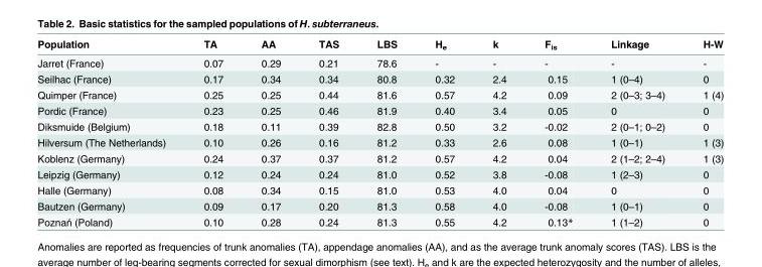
<table><thead><tr><td>Population</td><td>TA</td><td>AA</td><td>TAS</td><td>LBS</td><td>H<sub>e</sub></td><td>k</td><td>F<sub>is</sub></td><td>Linkage</td><td>H-W</td></tr></thead><tbody><tr><td>Jarret (France)</td><td>0.07</td><td>0.29</td><td>0.21</td><td>78.6</td><td>-</td><td>-</td><td>-</td><td>-</td><td>-</td></tr><tr><td>Seilhac (France)</td><td>0.17</td><td>0.34</td><td>0.34</td><td>80.8</td><td>0.32</td><td>2.4</td><td>0.15</td><td>1 (0–4)</td><td>0</td></tr><tr><td>Quimper (France)</td><td>0.25</td><td>0.25</td><td>0.44</td><td>81.6</td><td>0.57</td><td>4.2</td><td>0.09</td><td>2 (0–3; 3–4)</td><td>1 (4)</td></tr><tr><td>Pordic (France)</td><td>0.23</td><td>0.25</td><td>0.46</td><td>81.9</td><td>0.40</td><td>3.4</td><td>0.05</td><td>0</td><td>0</td></tr><tr><td>Diksmuide (Belgium)</td><td>0.18</td><td>0.11</td><td>0.39</td><td>82.8</td><td>0.50</td><td>3.2</td><td>-0.02</td><td>2 (0–1; 0–2)</td><td>0</td></tr><tr><td>Hilversum (The Netherlands)</td><td>0.10</td><td>0.26</td><td>0.16</td><td>81.2</td><td>0.33</td><td>2.6</td><td>0.08</td><td>1 (0–1)</td><td>1 (3)</td></tr><tr><td>Koblenz (Germany)</td><td>0.24</td><td>0.37</td><td>0.37</td><td>81.2</td><td>0.57</td><td>4.2</td><td>0.04</td><td>2 (1–2; 2–4)</td><td>1 (3)</td></tr><tr><td>Leipzig (Germany)</td><td>0.12</td><td>0.24</td><td>0.24</td><td>81.0</td><td>0.52</td><td>3.8</td><td>-0.08</td><td>1 (2–3)</td><td>0</td></tr><tr><td>Halle (Germany)</td><td>0.08</td><td>0.34</td><td>0.15</td><td>81.0</td><td>0.53</td><td>4.0</td><td>0.04</td><td>0</td><td>0</td></tr><tr><td>Bautzen (Germany)</td><td>0.09</td><td>0.17</td><td>0.20</td><td>81.3</td><td>0.58</td><td>4.0</td><td>-0.08</td><td>1 (0–1)</td><td>0</td></tr><tr><td>Poznań (Poland)</td><td>0.10</td><td>0.28</td><td>0.24</td><td>81.3</td><td>0.55</td><td>4.2</td><td>0.13*</td><td>1 (1–2)</td><td>0</td></tr></tbody></table>